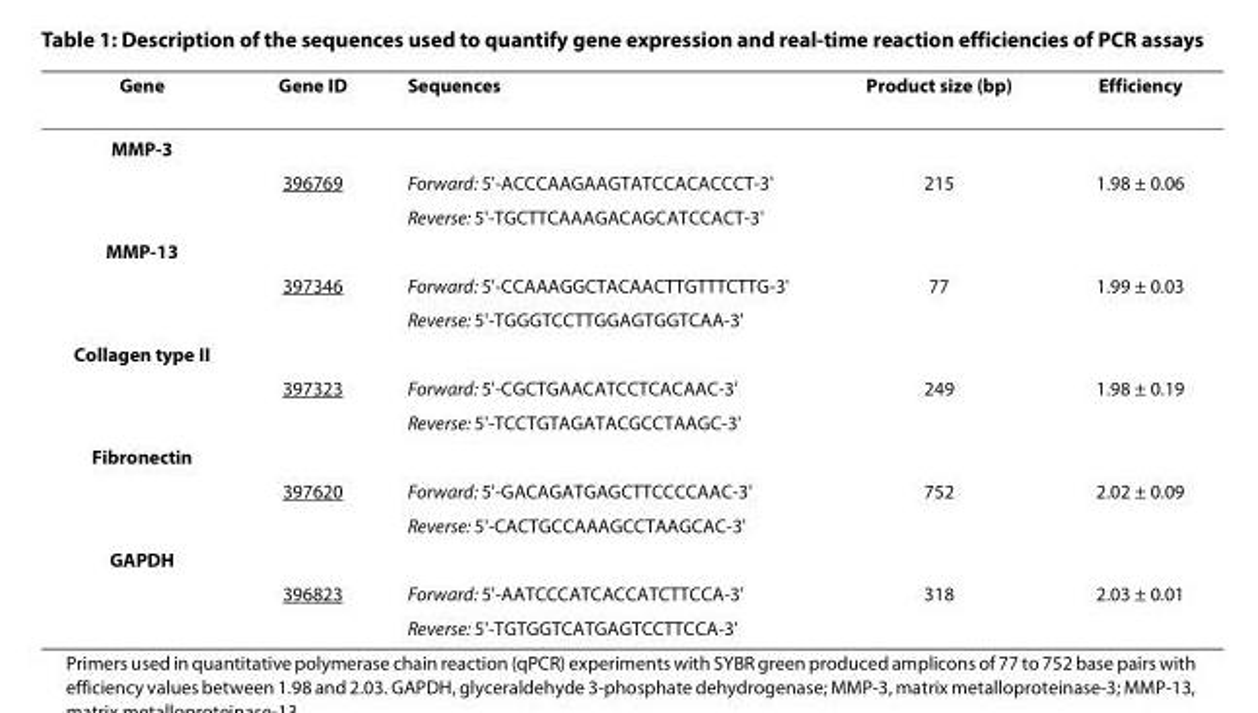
<table><thead><tr><td>Gene</td><td>Gene ID</td><td>Sequences</td><td>Product size (bp)</td><td>Efficiency</td></tr></thead><tbody><tr><td colspan="5">MMP-3</td></tr><tr><td></td><td>396769</td><td>Forward: 5&#x27;-ACCCAAGAAGTATCCACACCCT-3&#x27;</td><td>215</td><td>1.98 ± 0.06</td></tr><tr><td></td><td></td><td>Reverse: 5&#x27;-TGCTTCAAAGACAGCATCCACT-3&#x27;</td><td></td><td></td></tr><tr><td colspan="5">MMP-13</td></tr><tr><td></td><td>397346</td><td>Forward: 5&#x27;-CCAAAGGCTACAACTTGTTTCTTG-3&#x27;</td><td>77</td><td>1.99 ± 0.03</td></tr><tr><td></td><td></td><td>Reverse: 5&#x27;-TGGGTCCTTGGAGTGGTCAA-3&#x27;</td><td></td><td></td></tr><tr><td colspan="5">Collagen type II</td></tr><tr><td></td><td>397323</td><td>Forward: 5&#x27;-CGCTGAACATCCTCACAAC-3&#x27;</td><td>249</td><td>1.98 ± 0.19</td></tr><tr><td></td><td></td><td>Reverse: 5&#x27;-TCCTGTAGATACGCCTAAGC-3&#x27;</td><td></td><td></td></tr><tr><td colspan="5">Fibronectin</td></tr><tr><td></td><td>397620</td><td>Forward: 5&#x27;-GACAGATGAGCTTCCCCAAC-3&#x27;</td><td>752</td><td>2.02 ± 0.09</td></tr><tr><td></td><td></td><td>Reverse: 5&#x27;-CACTGCCAAAGCCTAAGCAC-3&#x27;</td><td></td><td></td></tr><tr><td colspan="5">GAPDH</td></tr><tr><td></td><td>396823</td><td>Forward: 5&#x27;-AATCCCATCACCATCTTCCA-3&#x27;</td><td>318</td><td>2.03 ± 0.01</td></tr><tr><td></td><td></td><td>Reverse: 5&#x27;-TGTGGTCATGAGTCCTTCCA-3&#x27;</td><td></td><td></td></tr></tbody></table>